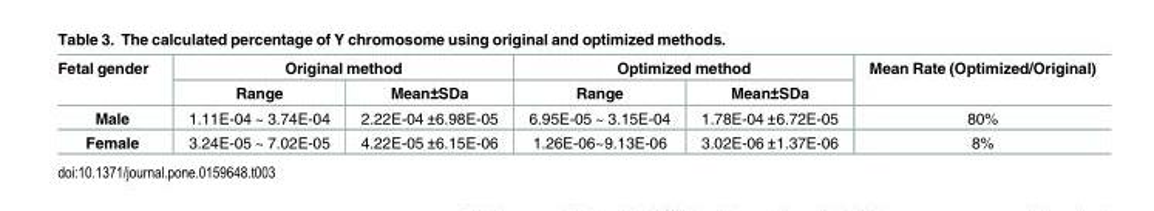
<table><thead><tr><td rowspan="2">Fetal gender</td><td colspan="2">Original method</td><td colspan="2">Optimized method</td><td rowspan="2">Mean Rate (Optimized/Original)</td></tr><tr><td>Range</td><td>Mean±SDa</td><td>Range</td><td>Mean±SDa</td></tr></thead><tbody><tr><td>Male</td><td>1.11E-04 ~ 3.74E-04</td><td>2.22E-04 ±6.98E-05</td><td>6.95E-05 ~ 3.15E-04</td><td>1.78E-04 ±6.72E-05</td><td>80%</td></tr><tr><td>Female</td><td>3.24E-05 ~ 7.02E-05</td><td>4.22E-05 ±6.15E-06</td><td>1.26E-06~9.13E-06</td><td>3.02E-06 ±1.37E-06</td><td>8%</td></tr></tbody></table>